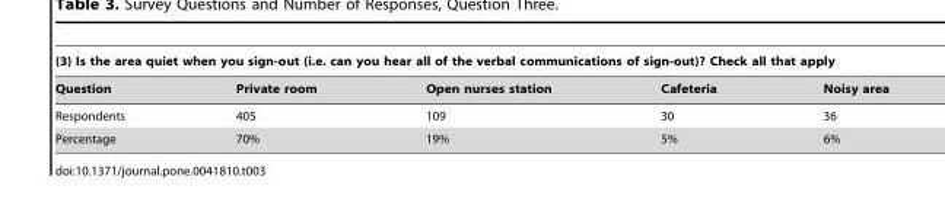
<table><thead><tr><td colspan="5">(3) Is the area quiet when you sign-out (i.e. can you hear all of the verbal communications of sign-out)? Check all that apply</td></tr><tr><td>Question</td><td>Private room</td><td>Open nurses station</td><td>Cafeteria</td><td>Noisy area</td></tr></thead><tbody><tr><td>Respondents</td><td>405</td><td>109</td><td>30</td><td>36</td></tr><tr><td>Percentage</td><td>70%</td><td>19%</td><td>5%</td><td>6%</td></tr></tbody></table>